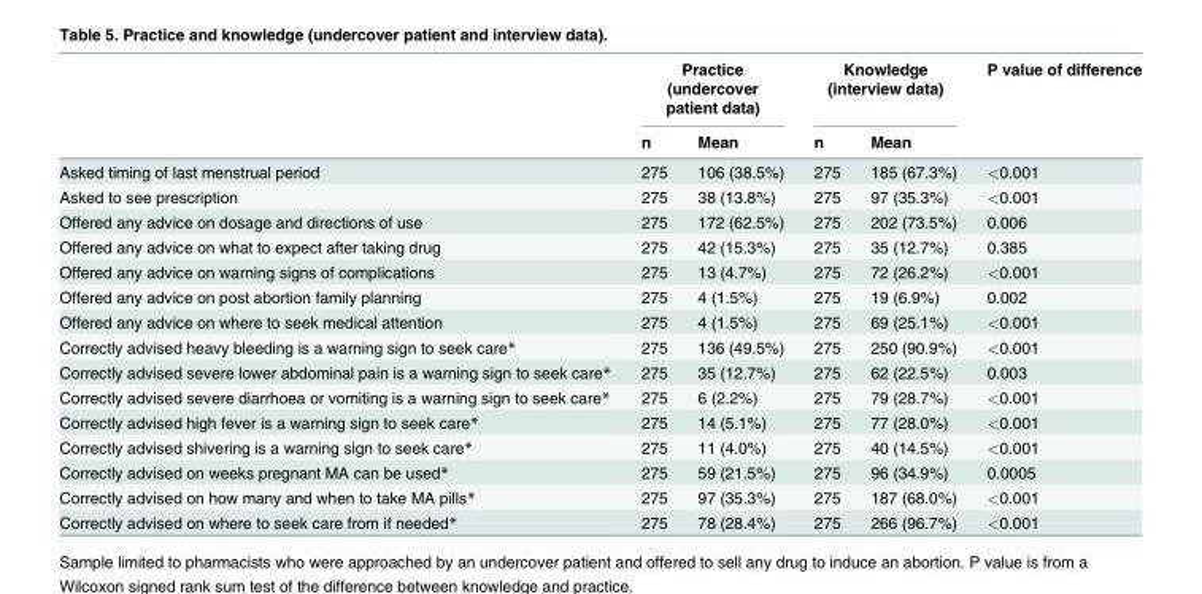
<table><thead><tr><td rowspan="2"></td><td colspan="2">Practice (undercover patient data)</td><td colspan="2">Knowledge (interview data)</td><td rowspan="2">P value of difference</td></tr><tr><td>n</td><td>Mean</td><td>n</td><td>Mean</td></tr></thead><tbody><tr><td>Asked timing of last menstrual period</td><td>275</td><td>106 (38.5%)</td><td>275</td><td>185 (67.3%)</td><td>&lt;0.001</td></tr><tr><td>Asked to see prescription</td><td>275</td><td>38 (13.8%)</td><td>275</td><td>97 (35.3%)</td><td>&lt;0.001</td></tr><tr><td>Offered any advice on dosage and directions of use</td><td>275</td><td>172 (62.5%)</td><td>275</td><td>202 (73.5%)</td><td>0.006</td></tr><tr><td>Offered any advice on what to expect after taking drug</td><td>275</td><td>42 (15.3%)</td><td>275</td><td>35 (12.7%)</td><td>0.385</td></tr><tr><td>Offered any advice on warning signs of complications</td><td>275</td><td>13 (4.7%)</td><td>275</td><td>72 (26.2%)</td><td>&lt;0.001</td></tr><tr><td>Offered any advice on post abortion family planning</td><td>275</td><td>4 (1.5%)</td><td>275</td><td>19 (6.9%)</td><td>0.002</td></tr><tr><td>Offered any advice on where to seek medical attention</td><td>275</td><td>4 (1.5%)</td><td>275</td><td>69 (25.1%)</td><td>&lt;0.001</td></tr><tr><td>Correctly advised heavy bleeding is a warning sign to seek care*</td><td>275</td><td>136 (49.5%)</td><td>275</td><td>250 (90.9%)</td><td>&lt;0.001</td></tr><tr><td>Correctly advised severe lower abdominal pain is a warning sign to seek care*</td><td>275</td><td>35 (12.7%)</td><td>275</td><td>62 (22.5%)</td><td>0.003</td></tr><tr><td>Correctly advised severe diarrhoea or vomiting is a warning sign to seek care*</td><td>275</td><td>6 (2.2%)</td><td>275</td><td>79 (28.7%)</td><td>&lt;0.001</td></tr><tr><td>Correctly advised high fever is a warning sign to seek care*</td><td>275</td><td>14 (5.1%)</td><td>275</td><td>77 (28.0%)</td><td>&lt;0.001</td></tr><tr><td>Correctly advised shivering is a warning sign to seek care*</td><td>275</td><td>11 (4.0%)</td><td>275</td><td>40 (14.5%)</td><td>&lt;0.001</td></tr><tr><td>Correctly advised on weeks pregnant MA can be used*</td><td>275</td><td>59 (21.5%)</td><td>275</td><td>96 (34.9%)</td><td>0.0005</td></tr><tr><td>Correctly advised on how many and when to take MA pills*</td><td>275</td><td>97 (35.3%)</td><td>275</td><td>187 (68.0%)</td><td>&lt;0.001</td></tr><tr><td>Correctly advised on where to seek care from if needed*</td><td>275</td><td>78 (28.4%)</td><td>275</td><td>266 (96.7%)</td><td>&lt;0.001</td></tr></tbody></table>